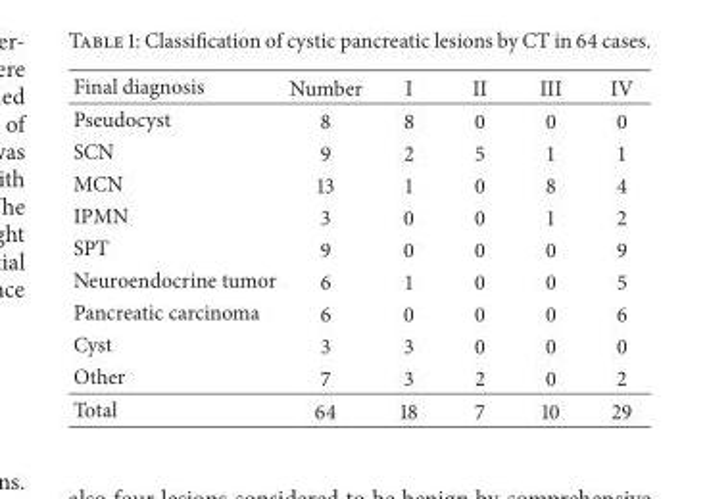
<table><thead><tr><td>Final diagnosis</td><td>Number</td><td>I</td><td>II</td><td>III</td><td>IV</td></tr></thead><tbody><tr><td>Pseudocyst</td><td>8</td><td>8</td><td>0</td><td>0</td><td>0</td></tr><tr><td>SCN</td><td>9</td><td>2</td><td>5</td><td>1</td><td>1</td></tr><tr><td>MCN</td><td>13</td><td>1</td><td>0</td><td>8</td><td>4</td></tr><tr><td>IPMN</td><td>3</td><td>0</td><td>0</td><td>1</td><td>2</td></tr><tr><td>SPT</td><td>9</td><td>0</td><td>0</td><td>0</td><td>9</td></tr><tr><td>Neuroendocrine tumor</td><td>6</td><td>1</td><td>0</td><td>0</td><td>5</td></tr><tr><td>Pancreatic carcinoma</td><td>6</td><td>0</td><td>0</td><td>0</td><td>6</td></tr><tr><td>Cyst</td><td>3</td><td>3</td><td>0</td><td>0</td><td>0</td></tr><tr><td>Other</td><td>7</td><td>3</td><td>2</td><td>0</td><td>2</td></tr><tr><td>Total</td><td>64</td><td>18</td><td>7</td><td>10</td><td>29</td></tr></tbody></table>